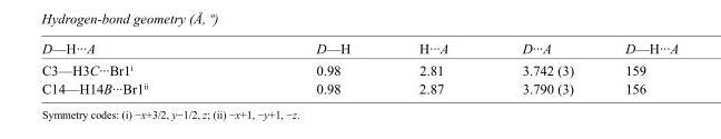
<table><tbody><tr><td>D—H···A</td><td>D—H</td><td>H···A</td><td>D···A</td><td>D—H···A</td></tr><tr><td>C3—H3C···Br1<sup>i</sup></td><td>0.98</td><td>2.81</td><td>3.742 (3)</td><td>159</td></tr><tr><td>C14—H14B···Br1<sup>ii</sup></td><td>0.98</td><td>2.87</td><td>3.790 (3)</td><td>156</td></tr></tbody></table>